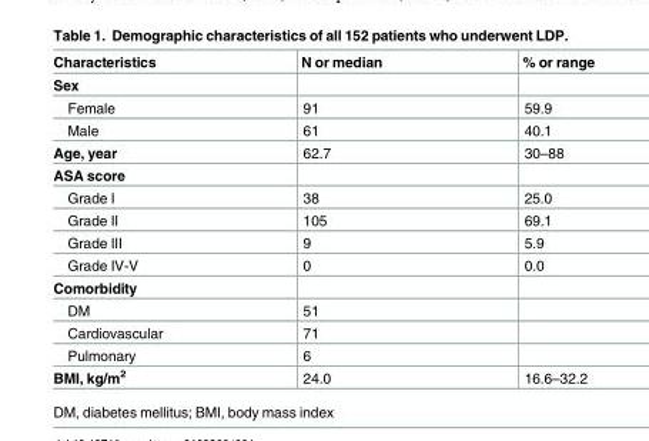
<table><thead><tr><td>Characteristics</td><td>N or median</td><td>% or range</td></tr></thead><tbody><tr><td colspan="3">Sex</td></tr><tr><td>Female</td><td>91</td><td>59.9</td></tr><tr><td>Male</td><td>61</td><td>40.1</td></tr><tr><td>Age, year</td><td>62.7</td><td>30–88</td></tr><tr><td colspan="3">ASA score</td></tr><tr><td>Grade I</td><td>38</td><td>25.0</td></tr><tr><td>Grade II</td><td>105</td><td>69.1</td></tr><tr><td>Grade III</td><td>9</td><td>5.9</td></tr><tr><td>Grade IV-V</td><td>0</td><td>0.0</td></tr><tr><td colspan="3">Comorbidity</td></tr><tr><td>DM</td><td>51</td><td></td></tr><tr><td>Cardiovascular</td><td>71</td><td></td></tr><tr><td>Pulmonary</td><td>6</td><td></td></tr><tr><td>BMI, kg/m<sup>2</sup></td><td>24.0</td><td>16.6–32.2</td></tr></tbody></table>